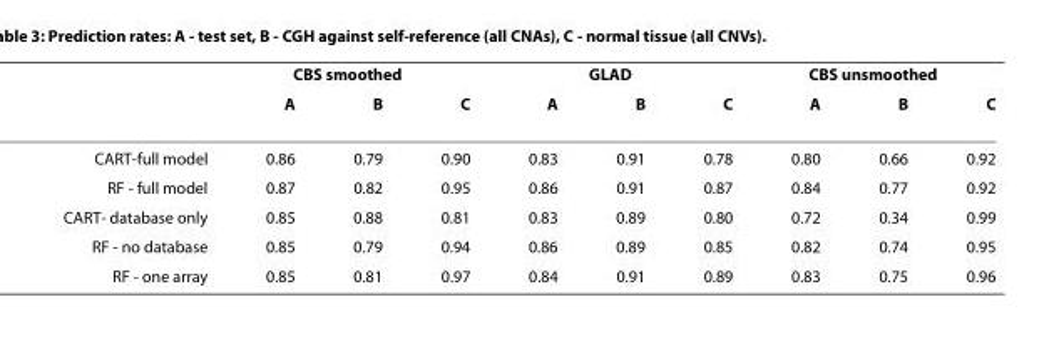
<table><thead><tr><td rowspan="2"></td><td colspan="3">CBS smoothed</td><td colspan="3">GLAD</td><td colspan="3">CBS unsmoothed</td></tr><tr><td>A</td><td>B</td><td>C</td><td>A</td><td>B</td><td>C</td><td>A</td><td>B</td><td>C</td></tr></thead><tbody><tr><td>CART-full model</td><td>0.86</td><td>0.79</td><td>0.90</td><td>0.83</td><td>0.91</td><td>0.78</td><td>0.80</td><td>0.66</td><td>0.92</td></tr><tr><td>RF - full model</td><td>0.87</td><td>0.82</td><td>0.95</td><td>0.86</td><td>0.91</td><td>0.87</td><td>0.84</td><td>0.77</td><td>0.92</td></tr><tr><td>CART- database only</td><td>0.85</td><td>0.88</td><td>0.81</td><td>0.83</td><td>0.89</td><td>0.80</td><td>0.72</td><td>0.34</td><td>0.99</td></tr><tr><td>RF - no database</td><td>0.85</td><td>0.79</td><td>0.94</td><td>0.86</td><td>0.89</td><td>0.85</td><td>0.82</td><td>0.74</td><td>0.95</td></tr><tr><td>RF - one array</td><td>0.85</td><td>0.81</td><td>0.97</td><td>0.84</td><td>0.91</td><td>0.89</td><td>0.83</td><td>0.75</td><td>0.96</td></tr></tbody></table>